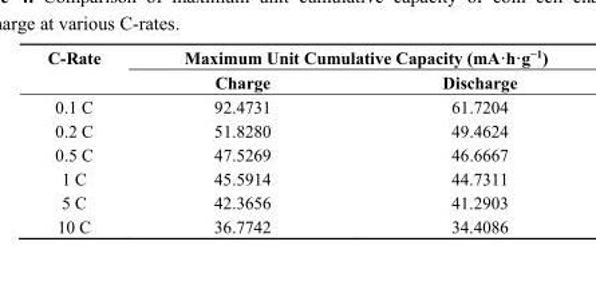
<table><thead><tr><td rowspan="2">C-Rate</td><td colspan="2">Maximum Unit Cumulative Capacity (mA·h·g<sup>−1</sup>)</td></tr><tr><td>Charge</td><td>Discharge</td></tr></thead><tbody><tr><td>0.1 C</td><td>92.4731</td><td>61.7204</td></tr><tr><td>0.2 C</td><td>51.8280</td><td>49.4624</td></tr><tr><td>0.5 C</td><td>47.5269</td><td>46.6667</td></tr><tr><td>1 C</td><td>45.5914</td><td>44.7311</td></tr><tr><td>5 C</td><td>42.3656</td><td>41.2903</td></tr><tr><td>10 C</td><td>36.7742</td><td>34.4086</td></tr></tbody></table>